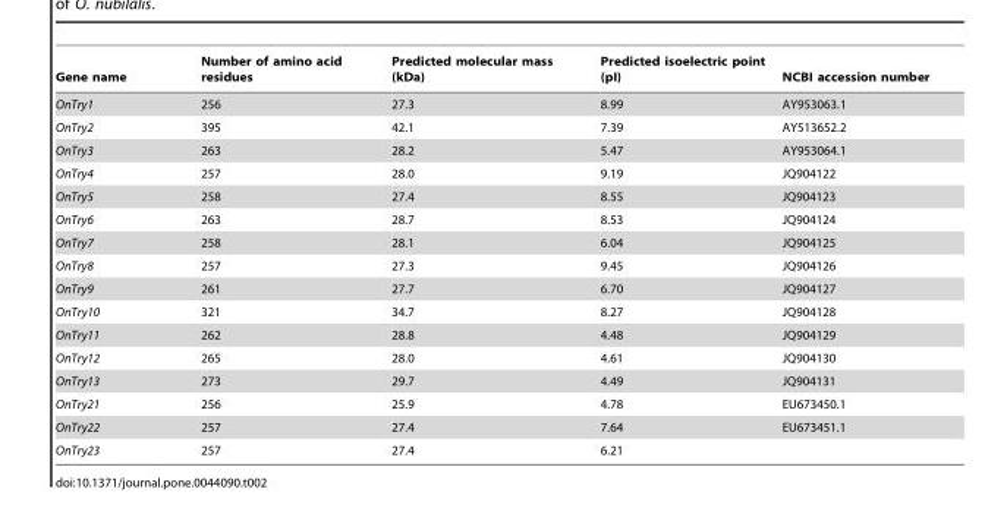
<table><thead><tr><td>Gene name</td><td>Number of amino acid residues</td><td>Predicted molecular mass (kDa)</td><td>Predicted isoelectric point (pI)</td><td>NCBI accession number</td></tr></thead><tbody><tr><td>OnTry1</td><td>256</td><td>27.3</td><td>8.99</td><td>AY953063.1</td></tr><tr><td>OnTry2</td><td>395</td><td>42.1</td><td>7.39</td><td>AY513652.2</td></tr><tr><td>OnTry3</td><td>263</td><td>28.2</td><td>5.47</td><td>AY953064.1</td></tr><tr><td>OnTry4</td><td>257</td><td>28.0</td><td>9.19</td><td>JQ904122</td></tr><tr><td>OnTry5</td><td>258</td><td>27.4</td><td>8.55</td><td>JQ904123</td></tr><tr><td>OnTry6</td><td>263</td><td>28.7</td><td>8.53</td><td>JQ904124</td></tr><tr><td>OnTry7</td><td>258</td><td>28.1</td><td>6.04</td><td>JQ904125</td></tr><tr><td>OnTry8</td><td>257</td><td>27.3</td><td>9.45</td><td>JQ904126</td></tr><tr><td>OnTry9</td><td>261</td><td>27.7</td><td>6.70</td><td>JQ904127</td></tr><tr><td>OnTry10</td><td>321</td><td>34.7</td><td>8.27</td><td>JQ904128</td></tr><tr><td>OnTry11</td><td>262</td><td>28.8</td><td>4.48</td><td>JQ904129</td></tr><tr><td>OnTry12</td><td>265</td><td>28.0</td><td>4.61</td><td>JQ904130</td></tr><tr><td>OnTry13</td><td>273</td><td>29.7</td><td>4.49</td><td>JQ904131</td></tr><tr><td>OnTry21</td><td>256</td><td>25.9</td><td>4.78</td><td>EU673450.1</td></tr><tr><td>OnTry22</td><td>257</td><td>27.4</td><td>7.64</td><td>EU673451.1</td></tr><tr><td>OnTry23</td><td>257</td><td>27.4</td><td>6.21</td><td></td></tr></tbody></table>